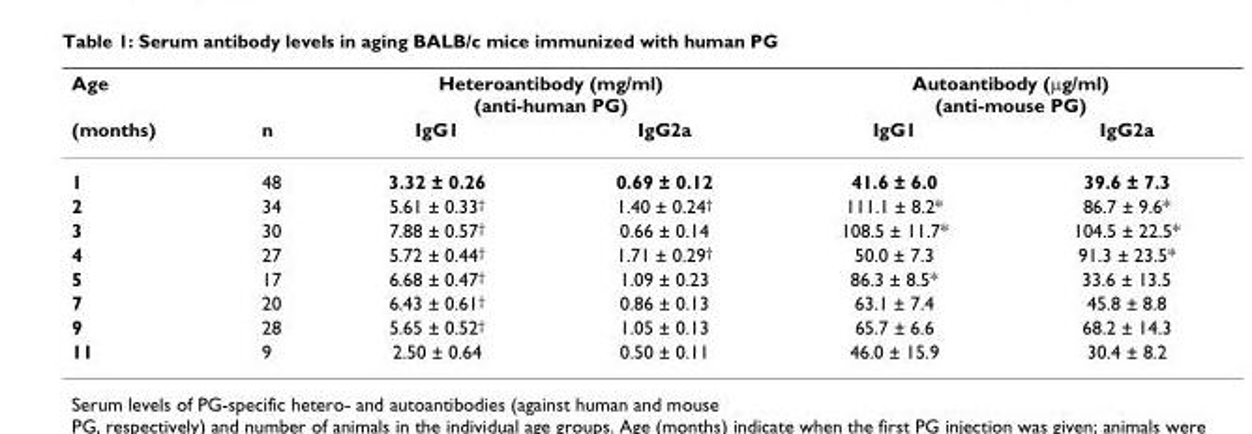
<table><thead><tr><td colspan="2">Age</td><td colspan="2">Heteroantibody (mg/ml) (anti-human PG)</td><td colspan="2">Autoantibody (μg/ml) (anti-mouse PG)</td></tr><tr><td>(months)</td><td>n</td><td>IgG1</td><td>IgG2a</td><td>IgG1</td><td>IgG2a</td></tr></thead><tbody><tr><td>1</td><td>48</td><td>3.32 ± 0.26</td><td>0.69 ± 0.12</td><td>41.6 ± 6.0</td><td>39.6 ± 7.3</td></tr><tr><td>2</td><td>34</td><td>5.61 ± 0.33<sup>†</sup></td><td>1.40 ± 0.24<sup>†</sup></td><td>111.1 ± 8.2*</td><td>86.7 ± 9.6*</td></tr><tr><td>3</td><td>30</td><td>7.88 ± 0.57<sup>†</sup></td><td>0.66 ± 0.14</td><td>108.5 ± 11.7*</td><td>104.5 ± 22.5*</td></tr><tr><td>4</td><td>27</td><td>5.72 ± 0.44<sup>†</sup></td><td>1.71 ± 0.29<sup>†</sup></td><td>50.0 ± 7.3</td><td>91.3 ± 23.5*</td></tr><tr><td>5</td><td>17</td><td>6.68 ± 0.47<sup>†</sup></td><td>1.09 ± 0.23</td><td>86.3 ± 8.5*</td><td>33.6 ± 13.5</td></tr><tr><td>7</td><td>20</td><td>6.43 ± 0.61<sup>†</sup></td><td>0.86 ± 0.13</td><td>63.1 ± 7.4</td><td>45.8 ± 8.8</td></tr><tr><td>9</td><td>28</td><td>5.65 ± 0.52<sup>†</sup></td><td>1.05 ± 0.13</td><td>65.7 ± 6.6</td><td>68.2 ± 14.3</td></tr><tr><td>11</td><td>9</td><td>2.50 ± 0.64</td><td>0.50 ± 0.11</td><td>46.0 ± 15.9</td><td>30.4 ± 8.2</td></tr></tbody></table>